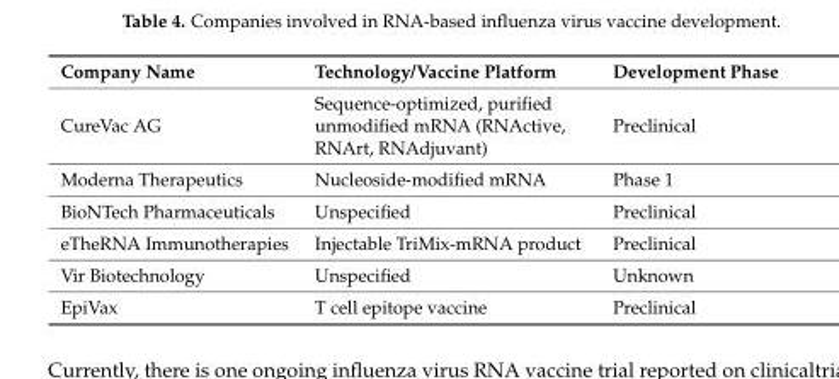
<table><thead><tr><td>Company Name</td><td>Technology/Vaccine Platform</td><td>Development Phase</td></tr></thead><tbody><tr><td>CureVac AG</td><td>Sequence-optimized, purified unmodified mRNA (RNActive, RNArt, RNAdjuvant)</td><td>Preclinical</td></tr><tr><td>Moderna Therapeutics</td><td>Nucleoside-modified mRNA</td><td>Phase 1</td></tr><tr><td>BioNTech Pharmaceuticals</td><td>Unspecified</td><td>Preclinical</td></tr><tr><td>eTheRNA Immunotherapies</td><td>Injectable TriMix-mRNA product</td><td>Preclinical</td></tr><tr><td>Vir Biotechnology</td><td>Unspecified</td><td>Unknown</td></tr><tr><td>EpiVax</td><td>T cell epitope vaccine</td><td>Preclinical</td></tr></tbody></table>